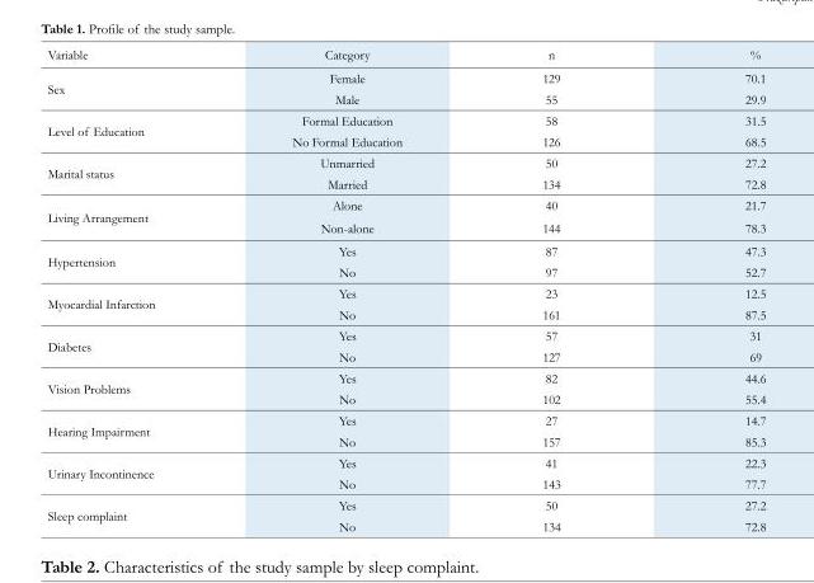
<table><thead><tr><td>Variable</td><td>Category</td><td>n</td><td>%</td></tr></thead><tbody><tr><td rowspan="2">Sex</td><td>Female</td><td>129</td><td>70.1</td></tr><tr><td>Male</td><td>55</td><td>29.9</td></tr><tr><td rowspan="2">Level of Education</td><td>Formal Education</td><td>58</td><td>31.5</td></tr><tr><td>No Formal Education</td><td>126</td><td>68.5</td></tr><tr><td rowspan="2">Marital status</td><td>Unmarried</td><td>50</td><td>27.2</td></tr><tr><td>Married</td><td>134</td><td>72.8</td></tr><tr><td rowspan="2">Living Arrangement</td><td>Alone</td><td>40</td><td>21.7</td></tr><tr><td>Non-alone</td><td>144</td><td>78.3</td></tr><tr><td rowspan="2">Hypertension</td><td>Yes</td><td>87</td><td>47.3</td></tr><tr><td>No</td><td>97</td><td>52.7</td></tr><tr><td rowspan="2">Myocardial Infarction</td><td>Yes</td><td>23</td><td>12.5</td></tr><tr><td>No</td><td>161</td><td>87.5</td></tr><tr><td rowspan="2">Diabetes</td><td>Yes</td><td>57</td><td>31</td></tr><tr><td>No</td><td>127</td><td>69</td></tr><tr><td rowspan="2">Vision Problems</td><td>Yes</td><td>82</td><td>44.6</td></tr><tr><td>No</td><td>102</td><td>55.4</td></tr><tr><td rowspan="2">Hearing Impairment</td><td>Yes</td><td>27</td><td>14.7</td></tr><tr><td>No</td><td>157</td><td>85.3</td></tr><tr><td rowspan="2">Urinary Incontinence</td><td>Yes</td><td>41</td><td>22.3</td></tr><tr><td>No</td><td>143</td><td>77.7</td></tr><tr><td rowspan="2">Sleep complaint</td><td>Yes</td><td>50</td><td>27.2</td></tr><tr><td>No</td><td>134</td><td>72.8</td></tr></tbody></table>